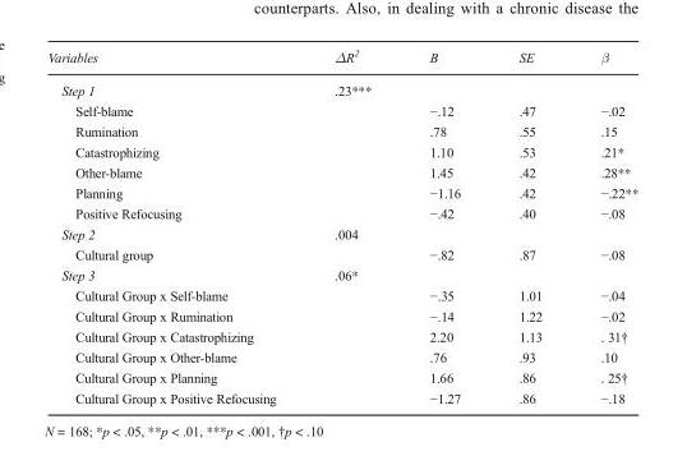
<table><thead><tr><td>Variables</td><td>ΔR<sup>2</sup></td><td>B</td><td>SE</td><td>β</td></tr></thead><tbody><tr><td>Step 1</td><td>.23***</td><td></td><td></td><td></td></tr><tr><td>Self-blame</td><td></td><td>−.12</td><td>.47</td><td>−.02</td></tr><tr><td>Rumination</td><td></td><td>.78</td><td>.55</td><td>.15</td></tr><tr><td>Catastrophizing</td><td></td><td>1.10</td><td>.53</td><td>.21*</td></tr><tr><td>Other-blame</td><td></td><td>1.45</td><td>.42</td><td>.28**</td></tr><tr><td>Planning</td><td></td><td>−1.16</td><td>.42</td><td>−.22**</td></tr><tr><td>Positive Refocusing</td><td></td><td>−.42</td><td>.40</td><td>−.08</td></tr><tr><td>Step 2</td><td>.004</td><td></td><td></td><td></td></tr><tr><td>Cultural group</td><td></td><td>−.82</td><td>.87</td><td>−.08</td></tr><tr><td>Step 3</td><td>.06*</td><td></td><td></td><td></td></tr><tr><td>Cultural Group x Self-blame</td><td></td><td>−.35</td><td>1.01</td><td>−.04</td></tr><tr><td>Cultural Group x Rumination</td><td></td><td>−.14</td><td>1.22</td><td>−.02</td></tr><tr><td>Cultural Group x Catastrophizing</td><td></td><td>2.20</td><td>1.13</td><td>. 31†</td></tr><tr><td>Cultural Group x Other-blame</td><td></td><td>.76</td><td>.93</td><td>.10</td></tr><tr><td>Cultural Group x Planning</td><td></td><td>1.66</td><td>.86</td><td>. 25†</td></tr><tr><td>Cultural Group x Positive Refocusing</td><td></td><td>−1.27</td><td>.86</td><td>−.18</td></tr></tbody></table>